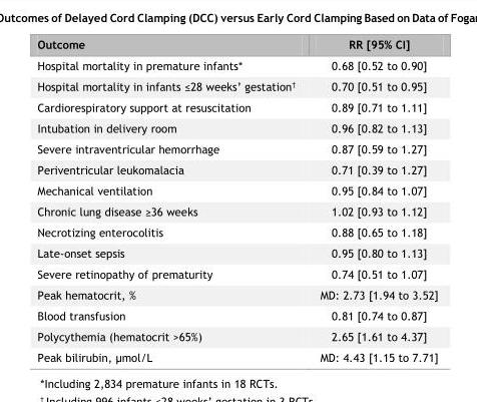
<table><thead><tr><td>Outcome</td><td>RR [95% CI]</td></tr></thead><tbody><tr><td>Hospital mortality in premature infants*</td><td>0.68 [0.52 to 0.90]</td></tr><tr><td>Hospital mortality in infants ≤28 weeks’ gestation†</td><td>0.70 [0.51 to 0.95]</td></tr><tr><td>Cardiorespiratory support at resuscitation</td><td>0.89 [0.71 to 1.11]</td></tr><tr><td>Intubation in delivery room</td><td>0.96 [0.82 to 1.13]</td></tr><tr><td>Severe intraventricular hemorrhage</td><td>0.87 [0.59 to 1.27]</td></tr><tr><td>Periventricular leukomalacia</td><td>0.71 [0.39 to 1.27]</td></tr><tr><td>Mechanical ventilation</td><td>0.95 [0.84 to 1.07]</td></tr><tr><td>Chronic lung disease ≥36 weeks</td><td>1.02 [0.93 to 1.12]</td></tr><tr><td>Necrotizing enterocolitis</td><td>0.88 [0.65 to 1.18]</td></tr><tr><td>Late-onset sepsis</td><td>0.95 [0.80 to 1.13]</td></tr><tr><td>Severe retinopathy of prematurity</td><td>0.74 [0.51 to 1.07]</td></tr><tr><td>Peak hematocrit, %</td><td>MD: 2.73 [1.94 to 3.52]</td></tr><tr><td>Blood transfusion</td><td>0.81 [0.74 to 0.87]</td></tr><tr><td>Polycythemia (hematocrit &gt;65%)</td><td>2.65 [1.61 to 4.37]</td></tr><tr><td>Peak bilirubin, μmol/L</td><td>MD: 4.43 [1.15 to 7.71]</td></tr></tbody></table>